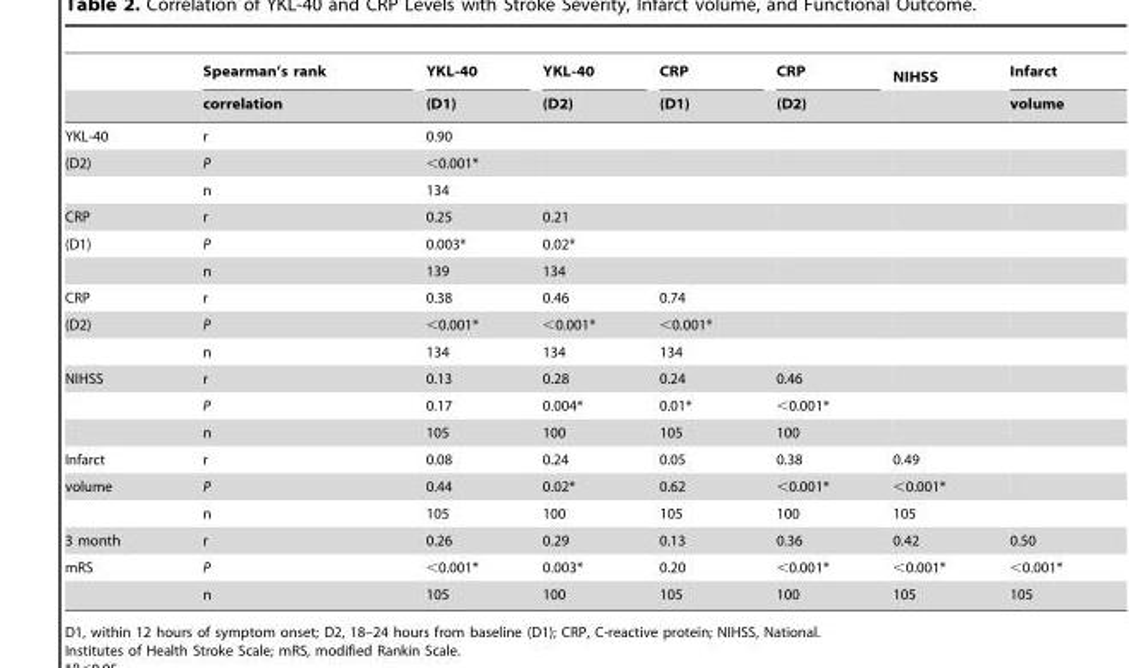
<table><thead><tr><td rowspan="2"></td><td rowspan="2">Spearman’s rank correlation</td><td rowspan="2">YKL-40 (D1)</td><td rowspan="2">YKL-40 (D2)</td><td rowspan="2">CRP (D1)</td><td rowspan="2">CRP (D2)</td><td rowspan="2">NIHSS</td><td rowspan="2">Infarct volume</td></tr><tr></tr></thead><tbody><tr><td>YKL-40</td><td>r</td><td>0.90</td><td></td><td></td><td></td><td></td><td></td></tr><tr><td rowspan="2">(D2)</td><td>P</td><td>&lt;0.001*</td><td></td><td></td><td></td><td></td><td></td></tr><tr><td>n</td><td>134</td><td></td><td></td><td></td><td></td><td></td></tr><tr><td>CRP</td><td>r</td><td>0.25</td><td>0.21</td><td></td><td></td><td></td><td></td></tr><tr><td rowspan="2">(D1)</td><td>P</td><td>0.003*</td><td>0.02*</td><td></td><td></td><td></td><td></td></tr><tr><td>n</td><td>139</td><td>134</td><td></td><td></td><td></td><td></td></tr><tr><td>CRP</td><td>r</td><td>0.38</td><td>0.46</td><td>0.74</td><td></td><td></td><td></td></tr><tr><td rowspan="2">(D2)</td><td>P</td><td>&lt;0.001*</td><td>&lt;0.001*</td><td>&lt;0.001*</td><td></td><td></td><td></td></tr><tr><td>n</td><td>134</td><td>134</td><td>134</td><td></td><td></td><td></td></tr><tr><td rowspan="3">NIHSS</td><td>r</td><td>0.13</td><td>0.28</td><td>0.24</td><td>0.46</td><td></td><td></td></tr><tr><td>P</td><td>0.17</td><td>0.004*</td><td>0.01*</td><td>&lt;0.001*</td><td></td><td></td></tr><tr><td>n</td><td>105</td><td>100</td><td>105</td><td>100</td><td></td><td></td></tr><tr><td>Infarct</td><td>r</td><td>0.08</td><td>0.24</td><td>0.05</td><td>0.38</td><td>0.49</td><td></td></tr><tr><td rowspan="2">volume</td><td>P</td><td>0.44</td><td>0.02*</td><td>0.62</td><td>&lt;0.001*</td><td>&lt;0.001*</td><td></td></tr><tr><td>n</td><td>105</td><td>100</td><td>105</td><td>100</td><td>105</td><td></td></tr><tr><td>3 month</td><td>r</td><td>0.26</td><td>0.29</td><td>0.13</td><td>0.36</td><td>0.42</td><td>0.50</td></tr><tr><td rowspan="2">mRS</td><td>P</td><td>&lt;0.001*</td><td>0.003*</td><td>0.20</td><td>&lt;0.001*</td><td>&lt;0.001*</td><td>&lt;0.001*</td></tr><tr><td>n</td><td>105</td><td>100</td><td>105</td><td>100</td><td>105</td><td>105</td></tr></tbody></table>